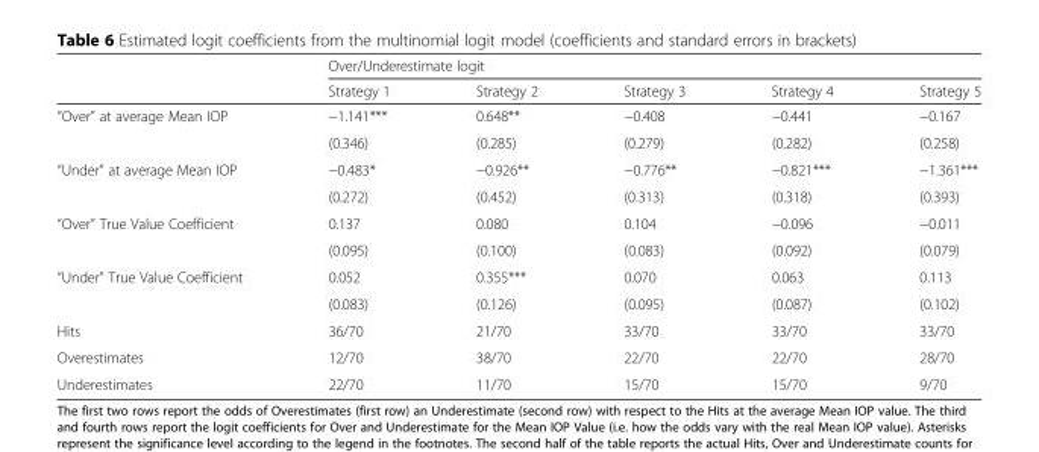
<table><thead><tr><td rowspan="2"></td><td colspan="5">Over/Underestimate logit</td></tr><tr><td>Strategy 1</td><td>Strategy 2</td><td>Strategy 3</td><td>Strategy 4</td><td>Strategy 5</td></tr></thead><tbody><tr><td rowspan="2">“Over” at average Mean IOP</td><td>−1.141***</td><td>0.648**</td><td>−0.408</td><td>−0.441</td><td>−0.167</td></tr><tr><td>(0.346)</td><td>(0.285)</td><td>(0.279)</td><td>(0.282)</td><td>(0.258)</td></tr><tr><td rowspan="2">“Under” at average Mean IOP</td><td>−0.483*</td><td>−0.926**</td><td>−0.776**</td><td>−0.821***</td><td>−1.361***</td></tr><tr><td>(0.272)</td><td>(0.452)</td><td>(0.313)</td><td>(0.318)</td><td>(0.393)</td></tr><tr><td rowspan="2">“Over” True Value Coefficient</td><td>0.137</td><td>0.080</td><td>0.104</td><td>−0.096</td><td>−0.011</td></tr><tr><td>(0.095)</td><td>(0.100)</td><td>(0.083)</td><td>(0.092)</td><td>(0.079)</td></tr><tr><td rowspan="2">“Under” True Value Coefficient</td><td>0.052</td><td>0.355***</td><td>0.070</td><td>0.063</td><td>0.113</td></tr><tr><td>(0.083)</td><td>(0.126)</td><td>(0.095)</td><td>(0.087)</td><td>(0.102)</td></tr><tr><td>Hits</td><td>36/70</td><td>21/70</td><td>33/70</td><td>33/70</td><td>33/70</td></tr><tr><td>Overestimates</td><td>12/70</td><td>38/70</td><td>22/70</td><td>22/70</td><td>28/70</td></tr><tr><td>Underestimates</td><td>22/70</td><td>11/70</td><td>15/70</td><td>15/70</td><td>9/70</td></tr></tbody></table>